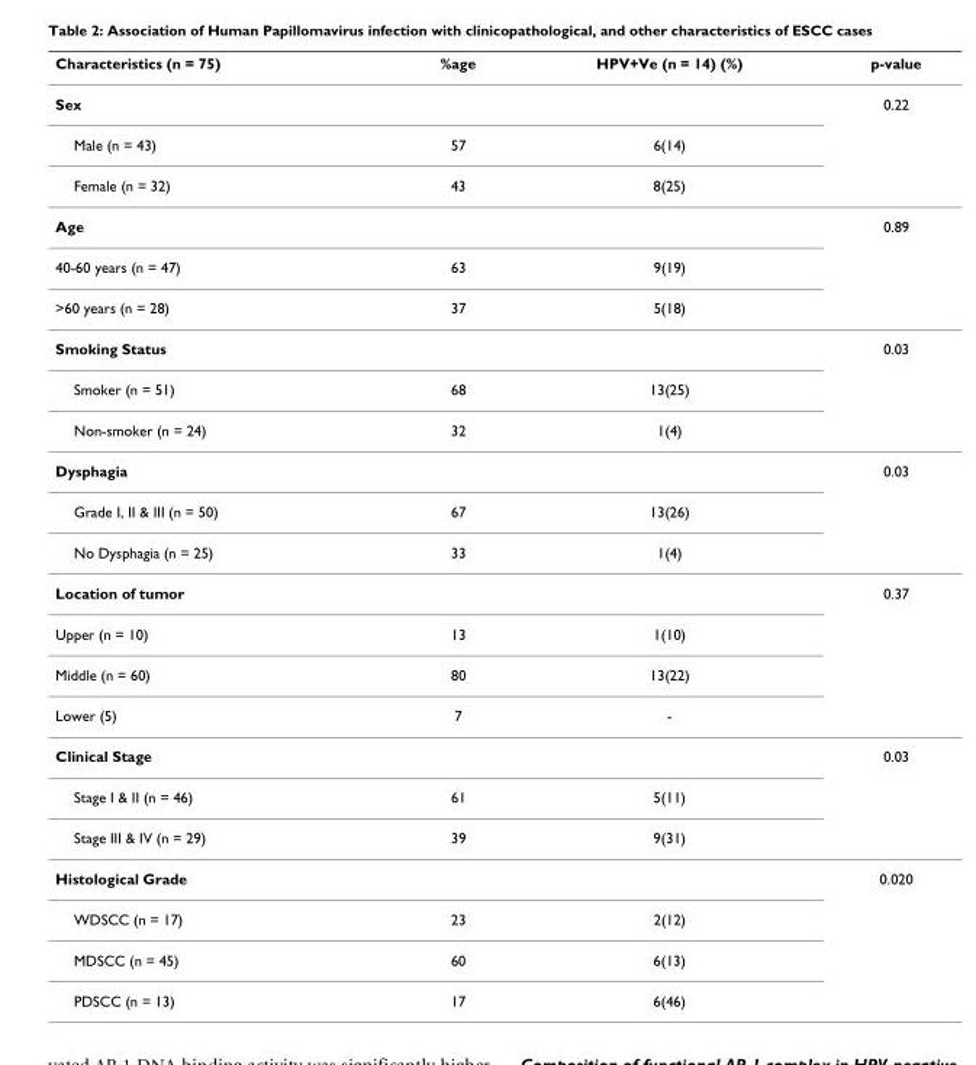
<table><thead><tr><td>Characteristics (n = 75)</td><td>%age</td><td>HPV+Ve (n = 14) (%)</td><td>p-value</td></tr></thead><tbody><tr><td>Sex</td><td></td><td></td><td>0.22</td></tr><tr><td>Male (n = 43)</td><td>57</td><td>6(14)</td><td></td></tr><tr><td>Female (n = 32)</td><td>43</td><td>8(25)</td><td></td></tr><tr><td>Age</td><td></td><td></td><td>0.89</td></tr><tr><td>40-60 years (n = 47)</td><td>63</td><td>9(19)</td><td></td></tr><tr><td>&gt;60 years (n = 28)</td><td>37</td><td>5(18)</td><td></td></tr><tr><td>Smoking Status</td><td></td><td></td><td>0.03</td></tr><tr><td>Smoker (n = 51)</td><td>68</td><td>13(25)</td><td></td></tr><tr><td>Non-smoker (n = 24)</td><td>32</td><td>1(4)</td><td></td></tr><tr><td>Dysphagia</td><td></td><td></td><td>0.03</td></tr><tr><td>Grade I, II &amp; III (n = 50)</td><td>67</td><td>13(26)</td><td></td></tr><tr><td>No Dysphagia (n = 25)</td><td>33</td><td>1(4)</td><td></td></tr><tr><td>Location of tumor</td><td></td><td></td><td>0.37</td></tr><tr><td>Upper (n = 10)</td><td>13</td><td>1(10)</td><td></td></tr><tr><td>Middle (n = 60)</td><td>80</td><td>13(22)</td><td></td></tr><tr><td>Lower (5)</td><td>7</td><td>-</td><td></td></tr><tr><td>Clinical Stage</td><td></td><td></td><td>0.03</td></tr><tr><td>Stage I &amp; II (n = 46)</td><td>61</td><td>5(11)</td><td></td></tr><tr><td>Stage III &amp; IV (n = 29)</td><td>39</td><td>9(31)</td><td></td></tr><tr><td>Histological Grade</td><td></td><td></td><td>0.020</td></tr><tr><td>WDSCC (n = 17)</td><td>23</td><td>2(12)</td><td></td></tr><tr><td>MDSCC (n = 45)</td><td>60</td><td>6(13)</td><td></td></tr><tr><td>PDSCC (n = 13)</td><td>17</td><td>6(46)</td><td></td></tr></tbody></table>